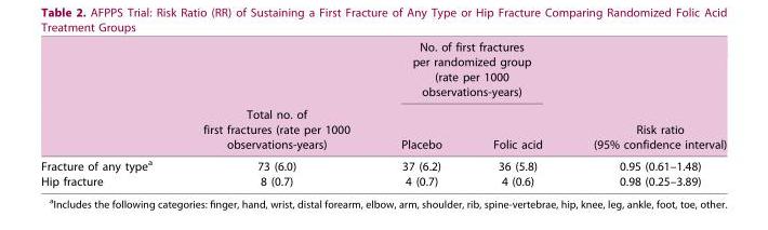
<table><thead><tr><td rowspan="2"></td><td rowspan="2">Total no. of first fractures (rate per 1000 observations-years)</td><td colspan="2">No. of first fractures per randomized group (rate per 1000 observations-years)</td><td rowspan="2">Risk ratio (95% confidence interval)</td></tr><tr><td>Placebo</td><td>Folic acid</td></tr></thead><tbody><tr><td>Fracture of any type<sup>a</sup></td><td>73 (6.0)</td><td>37 (6.2)</td><td>36 (5.8)</td><td>0.95 (0.61–1.48)</td></tr><tr><td>Hip fracture</td><td>8 (0.7)</td><td>4 (0.7)</td><td>4 (0.6)</td><td>0.98 (0.25–3.89)</td></tr></tbody></table>